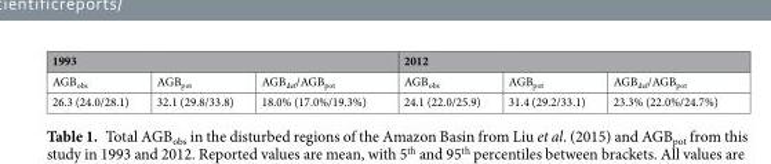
<table><thead><tr><td colspan="3">1993</td><td colspan="3">2012</td></tr><tr><td>AGB<sub>obs</sub></td><td>AGB<sub>pot</sub></td><td>AGB<sub>def</sub>/AGB<sub>pot</sub></td><td>AGB<sub>obs</sub></td><td>AGB<sub>pot</sub></td><td>AGB<sub>def</sub>/AGB<sub>pot</sub></td></tr></thead><tbody><tr><td>26.3 (24.0/28.1)</td><td>32.1 (29.8/33.8)</td><td>18.0% (17.0%/19.3%)</td><td>24.1 (22.0/25.9)</td><td>31.4 (29.2/33.1)</td><td>23.3% (22.0%/24.7%)</td></tr></tbody></table>